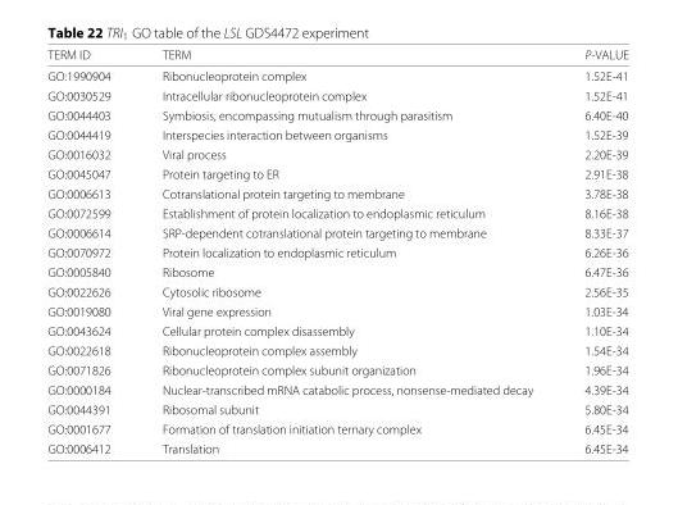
<table><thead><tr><td>TERM ID</td><td>TERM</td><td>P-VALUE</td></tr></thead><tbody><tr><td>GO:1990904</td><td>Ribonucleoprotein complex</td><td>1.52E-41</td></tr><tr><td>GO:0030529</td><td>Intracellular ribonucleoprotein complex</td><td>1.52E-41</td></tr><tr><td>GO:0044403</td><td>Symbiosis, encompassing mutualism through parasitism</td><td>6.40E-40</td></tr><tr><td>GO:0044419</td><td>Interspecies interaction between organisms</td><td>1.52E-39</td></tr><tr><td>GO:0016032</td><td>Viral process</td><td>2.20E-39</td></tr><tr><td>GO:0045047</td><td>Protein targeting to ER</td><td>2.91E-38</td></tr><tr><td>GO:0006613</td><td>Cotranslational protein targeting to membrane</td><td>3.78E-38</td></tr><tr><td>GO:0072599</td><td>Establishment of protein localization to endoplasmic reticulum</td><td>8.16E-38</td></tr><tr><td>GO:0006614</td><td>SRP-dependent cotranslational protein targeting to membrane</td><td>8.33E-37</td></tr><tr><td>GO:0070972</td><td>Protein localization to endoplasmic reticulum</td><td>6.26E-36</td></tr><tr><td>GO:0005840</td><td>Ribosome</td><td>6.47E-36</td></tr><tr><td>GO:0022626</td><td>Cytosolic ribosome</td><td>2.56E-35</td></tr><tr><td>GO:0019080</td><td>Viral gene expression</td><td>1.03E-34</td></tr><tr><td>GO:0043624</td><td>Cellular protein complex disassembly</td><td>1.10E-34</td></tr><tr><td>GO:0022618</td><td>Ribonucleoprotein complex assembly</td><td>1.54E-34</td></tr><tr><td>GO:0071826</td><td>Ribonucleoprotein complex subunit organization</td><td>1.96E-34</td></tr><tr><td>GO:0000184</td><td>Nuclear-transcribed mRNA catabolic process, nonsense-mediated decay</td><td>4.39E-34</td></tr><tr><td>GO:0044391</td><td>Ribosomal subunit</td><td>5.80E-34</td></tr><tr><td>GO:0001677</td><td>Formation of translation initiation ternary complex</td><td>6.45E-34</td></tr><tr><td>GO:0006412</td><td>Translation</td><td>6.45E-34</td></tr></tbody></table>